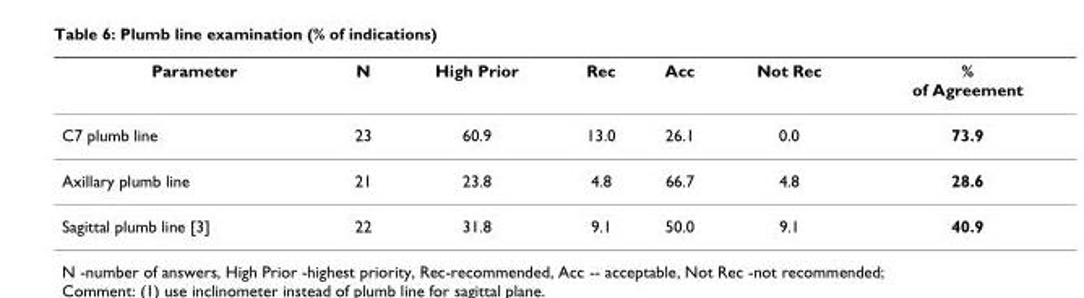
<table><thead><tr><td>Parameter</td><td>N</td><td>High Prior</td><td>Rec</td><td>Acc</td><td>Not Rec</td><td>% of Agreement</td></tr></thead><tbody><tr><td>C7 plumb line</td><td>23</td><td>60.9</td><td>13.0</td><td>26.1</td><td>0.0</td><td>73.9</td></tr><tr><td>Axillary plumb line</td><td>21</td><td>23.8</td><td>4.8</td><td>66.7</td><td>4.8</td><td>28.6</td></tr><tr><td>Sagittal plumb line [3]</td><td>22</td><td>31.8</td><td>9.1</td><td>50.0</td><td>9.1</td><td>40.9</td></tr></tbody></table>